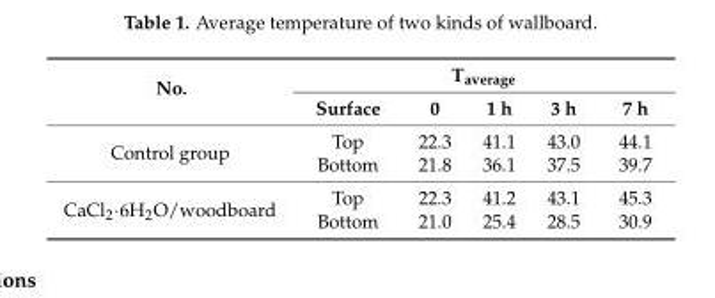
<table><thead><tr><td rowspan="2">No.</td><td colspan="5">T<sub>average</sub></td></tr><tr><td>Surface</td><td>0</td><td>1 h</td><td>3 h</td><td>7 h</td></tr></thead><tbody><tr><td rowspan="2">Control group</td><td>Top</td><td>22.3</td><td>41.1</td><td>43.0</td><td>44.1</td></tr><tr><td>Bottom</td><td>21.8</td><td>36.1</td><td>37.5</td><td>39.7</td></tr><tr><td rowspan="2">CaCl<sub>2</sub>·6H<sub>2</sub>O/woodboard</td><td>Top</td><td>22.3</td><td>41.2</td><td>43.1</td><td>45.3</td></tr><tr><td>Bottom</td><td>21.0</td><td>25.4</td><td>28.5</td><td>30.9</td></tr></tbody></table>